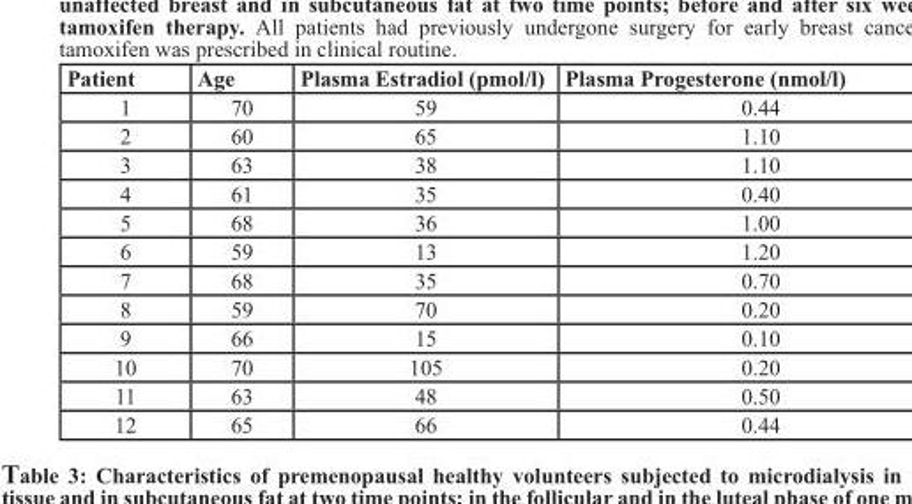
<table><thead><tr><td>Patient</td><td>Age</td><td>Plasma Estradiol (pmol/l)</td><td>Plasma Progesterone (nmol/l)</td></tr></thead><tbody><tr><td>1</td><td>70</td><td>59</td><td>0.44</td></tr><tr><td>2</td><td>60</td><td>65</td><td>1.10</td></tr><tr><td>3</td><td>63</td><td>38</td><td>1.10</td></tr><tr><td>4</td><td>61</td><td>35</td><td>0.40</td></tr><tr><td>5</td><td>68</td><td>36</td><td>1.00</td></tr><tr><td>6</td><td>59</td><td>13</td><td>1.20</td></tr><tr><td>7</td><td>68</td><td>35</td><td>0.70</td></tr><tr><td>8</td><td>59</td><td>70</td><td>0.20</td></tr><tr><td>9</td><td>66</td><td>15</td><td>0.10</td></tr><tr><td>10</td><td>70</td><td>105</td><td>0.20</td></tr><tr><td>11</td><td>63</td><td>48</td><td>0.50</td></tr><tr><td>12</td><td>65</td><td>66</td><td>0.44</td></tr></tbody></table>